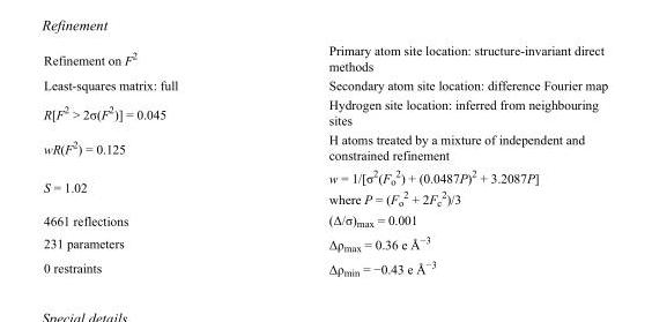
<table><tbody><tr><td>Refinement on F<sup>2</sup></td><td>Primary atom site location: structure-invariant direct methods</td></tr><tr><td>Least-squares matrix: full</td><td>Secondary atom site location: difference Fourier map</td></tr><tr><td>R[F<sup>2</sup> &gt; 2σ(F<sup>2</sup>)] = 0.045</td><td>Hydrogen site location: inferred from neighbouring sites</td></tr><tr><td>wR(F<sup>2</sup>) = 0.125</td><td>H atoms treated by a mixture of independent and constrained refinement</td></tr><tr><td>S = 1.02</td><td>w = 1/[σ<sup>2</sup>(F<sub>o</sub> <sup>2</sup>) + (0.0487P)<sup>2</sup> + 3.2087P] where P = (F<sub>o</sub> <sup>2</sup> + 2F<sub>c</sub> <sup>2</sup>)/3</td></tr><tr><td>4661 reflections</td><td>(Δ/σ)<sub>max</sub> = 0.001</td></tr><tr><td>231 parameters</td><td>Δρ<sub>max</sub> = 0.36 e Å<sup>−3</sup></td></tr><tr><td>0 restraints</td><td>Δρ<sub>min</sub> = −0.43 e Å<sup>−3</sup></td></tr></tbody></table>